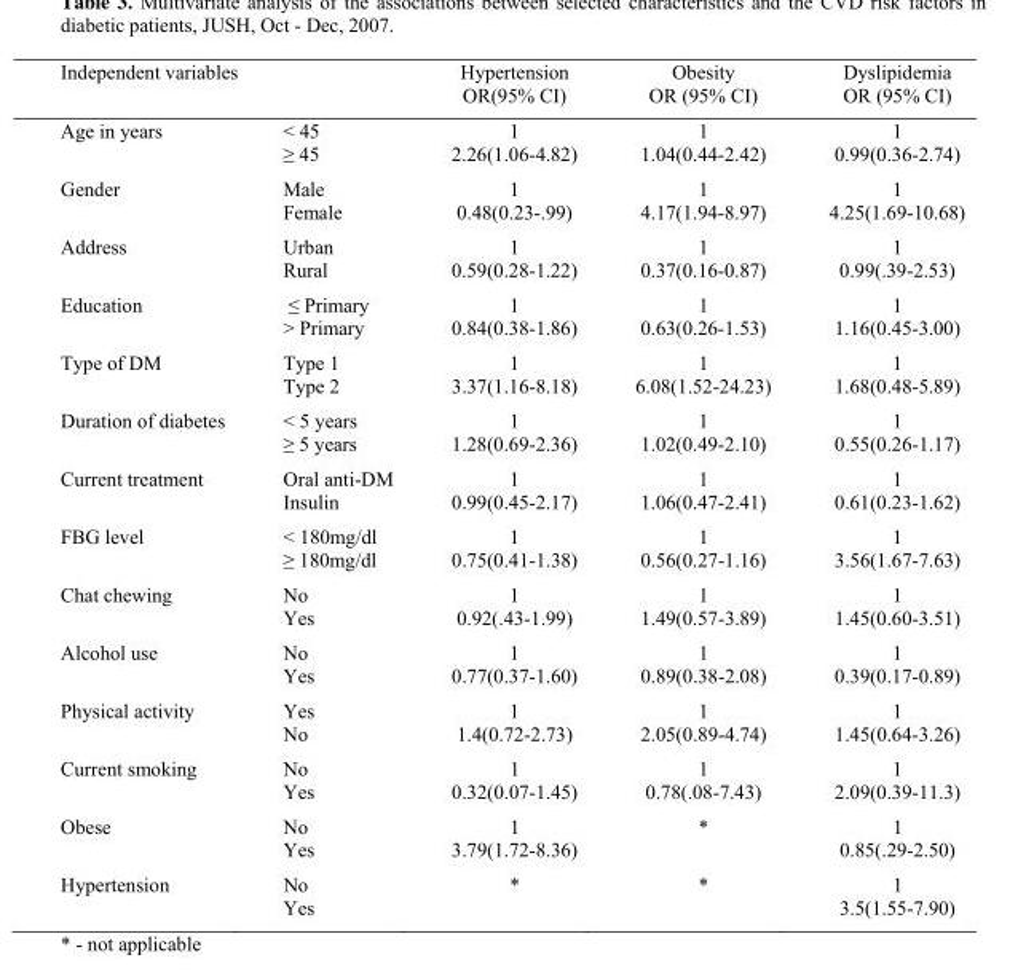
<table><thead><tr><td>Independent variables</td><td></td><td>Hypertension OR(95% CI)</td><td>Obesity OR (95% CI)</td><td>Dyslipidemia OR (95% CI)</td></tr></thead><tbody><tr><td>Age in years</td><td>&lt; 45 ≥ 45</td><td>1 2.26(1.06-4.82)</td><td>1 1.04(0.44-2.42)</td><td>1 0.99(0.36-2.74)</td></tr><tr><td>Gender</td><td>Male Female</td><td>1 0.48(0.23-.99)</td><td>1 4.17(1.94-8.97)</td><td>1 4.25(1.69-10.68)</td></tr><tr><td>Address</td><td>Urban Rural</td><td>1 0.59(0.28-1.22)</td><td>1 0.37(0.16-0.87)</td><td>1 0.99(.39-2.53)</td></tr><tr><td>Education</td><td>≤ Primary &gt; Primary</td><td>1 0.84(0.38-1.86)</td><td>1 0.63(0.26-1.53)</td><td>1 1.16(0.45-3.00)</td></tr><tr><td>Type of DM</td><td>Type 1 Type 2</td><td>1 3.37(1.16-8.18)</td><td>1 6.08(1.52-24.23)</td><td>1 1.68(0.48-5.89)</td></tr><tr><td>Duration of diabetes</td><td>&lt; 5 years ≥ 5 years</td><td>1 1.28(0.69-2.36)</td><td>1 1.02(0.49-2.10)</td><td>1 0.55(0.26-1.17)</td></tr><tr><td>Current treatment</td><td>Oral anti-DM Insulin</td><td>1 0.99(0.45-2.17)</td><td>1 1.06(0.47-2.41)</td><td>1 0.61(0.23-1.62)</td></tr><tr><td>FBG level</td><td>&lt; 180mg/dl ≥ 180mg/dl</td><td>1 0.75(0.41-1.38)</td><td>1 0.56(0.27-1.16)</td><td>1 3.56(1.67-7.63)</td></tr><tr><td>Chat chewing</td><td>No Yes</td><td>1 0.92(.43-1.99)</td><td>1 1.49(0.57-3.89)</td><td>1 1.45(0.60-3.51)</td></tr><tr><td>Alcohol use</td><td>No Yes</td><td>1 0.77(0.37-1.60)</td><td>1 0.89(0.38-2.08)</td><td>1 0.39(0.17-0.89)</td></tr><tr><td>Physical activity</td><td>Yes No</td><td>1 1.4(0.72-2.73)</td><td>1 2.05(0.89-4.74)</td><td>1 1.45(0.64-3.26)</td></tr><tr><td>Current smoking</td><td>No Yes</td><td>1 0.32(0.07-1.45)</td><td>1 0.78(.08-7.43)</td><td>1 2.09(0.39-11.3)</td></tr><tr><td>Obese</td><td>No Yes</td><td>1 3.79(1.72-8.36)</td><td>*</td><td>1 0.85(.29-2.50)</td></tr><tr><td>Hypertension</td><td>No Yes</td><td>*</td><td>*</td><td>1 3.5(1.55-7.90)</td></tr></tbody></table>